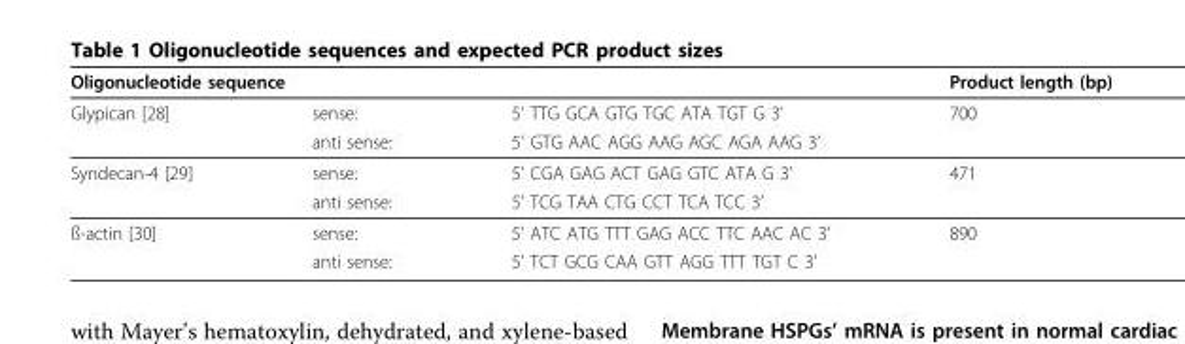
<table><thead><tr><td colspan="3">Oligonucleotide sequence</td><td rowspan="2">Product length (bp) 700</td></tr><tr><td>Glypican [28]</td><td>sense:</td><td>5’ TTG GCA GTG TGC ATA TGT G 3’</td></tr></thead><tbody><tr><td></td><td>anti sense:</td><td>5’ GTG AAC AGG AAG AGC AGA AAG 3’</td><td></td></tr><tr><td rowspan="2">Syndecan-4 [29]</td><td>sense:</td><td>5’ CGA GAG ACT GAG GTC ATA G 3’</td><td>471</td></tr><tr><td>anti sense:</td><td>5’ TCG TAA CTG CCT TCA TCC 3’</td><td></td></tr><tr><td rowspan="2">ß-actin [30]</td><td>sense:</td><td>5’ ATC ATG TTT GAG ACC TTC AAC AC 3’</td><td>890</td></tr><tr><td>anti sense:</td><td>5’ TCT GCG CAA GTT AGG TTT TGT C 3’</td><td></td></tr></tbody></table>